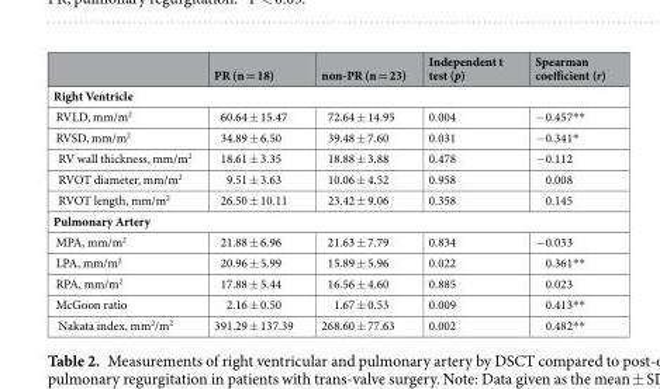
<table><thead><tr><td></td><td>PR (n = 18)</td><td>non-PR (n = 23)</td><td>Independent t test (p)</td><td>Spearman coefficient (r)</td></tr></thead><tbody><tr><td colspan="5">Right Ventricle</td></tr><tr><td>RVLD, mm/m<sup>2</sup></td><td>60.64 ± 15.47</td><td>72.64 ± 14.95</td><td>0.004</td><td>−0.457**</td></tr><tr><td>RVSD, mm/m<sup>2</sup></td><td>34.89 ± 6.50</td><td>39.48 ± 7.60</td><td>0.031</td><td>−0.341*</td></tr><tr><td>RV wall thickness, mm/m<sup>2</sup></td><td>18.61 ± 3.35</td><td>18.88 ± 3.88</td><td>0.478</td><td>−0.112</td></tr><tr><td>RVOT diameter, mm/m<sup>2</sup></td><td>9.51 ± 3.63</td><td>10.06 ± 4.52</td><td>0.958</td><td>0.008</td></tr><tr><td>RVOT length, mm/m<sup>2</sup></td><td>26.50 ± 10.11</td><td>23.42 ± 9.06</td><td>0.358</td><td>0.145</td></tr><tr><td colspan="5">Pulmonary Artery</td></tr><tr><td>MPA, mm/m<sup>2</sup></td><td>21.88 ± 6.96</td><td>21.63 ± 7.79</td><td>0.834</td><td>−0.033</td></tr><tr><td>LPA, mm/m<sup>2</sup></td><td>20.96 ± 5.99</td><td>15.89 ± 5.96</td><td>0.022</td><td>0.361**</td></tr><tr><td>RPA, mm/m<sup>2</sup></td><td>17.88 ± 5.44</td><td>16.56 ± 4.60</td><td>0.885</td><td>0.023</td></tr><tr><td>McGoon ratio</td><td>2.16 ± 0.50</td><td>1.67 ± 0.53</td><td>0.009</td><td>0.413**</td></tr><tr><td>Nakata index, mm<sup>2</sup>/m<sup>2</sup></td><td>391.29 ± 137.39</td><td>268.60 ± 77.63</td><td>0.002</td><td>0.482**</td></tr></tbody></table>